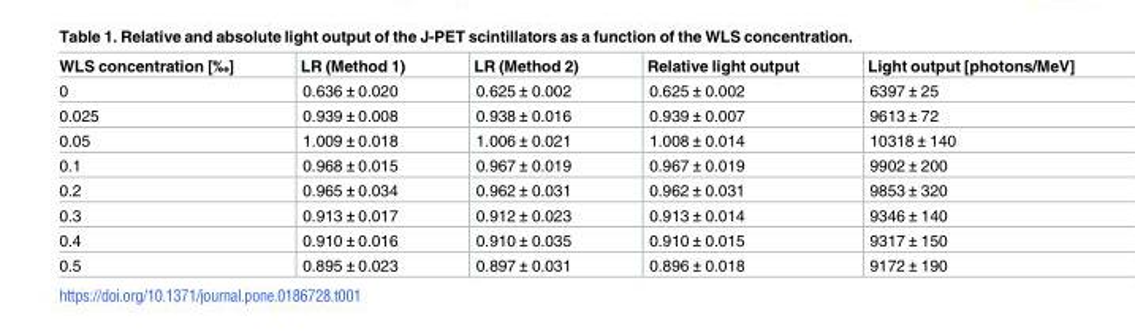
<table><thead><tr><td>WLS concentration [‰]</td><td>LR (Method 1)</td><td>LR (Method 2)</td><td>Relative light output</td><td>Light output [photons/MeV]</td></tr></thead><tbody><tr><td>0</td><td>0.636 ± 0.020</td><td>0.625 ± 0.002</td><td>0.625 ± 0.002</td><td>6397 ± 25</td></tr><tr><td>0.025</td><td>0.939 ± 0.008</td><td>0.938 ± 0.016</td><td>0.939 ± 0.007</td><td>9613 ± 72</td></tr><tr><td>0.05</td><td>1.009 ± 0.018</td><td>1.006 ± 0.021</td><td>1.008 ± 0.014</td><td>10318 ± 140</td></tr><tr><td>0.1</td><td>0.968 ± 0.015</td><td>0.967 ± 0.019</td><td>0.967 ± 0.019</td><td>9902 ± 200</td></tr><tr><td>0.2</td><td>0.965 ± 0.034</td><td>0.962 ± 0.031</td><td>0.962 ± 0.031</td><td>9853 ± 320</td></tr><tr><td>0.3</td><td>0.913 ± 0.017</td><td>0.912 ± 0.023</td><td>0.913 ± 0.014</td><td>9346 ± 140</td></tr><tr><td>0.4</td><td>0.910 ± 0.016</td><td>0.910 ± 0.035</td><td>0.910 ± 0.015</td><td>9317 ± 150</td></tr><tr><td>0.5</td><td>0.895 ± 0.023</td><td>0.897 ± 0.031</td><td>0.896 ± 0.018</td><td>9172 ± 190</td></tr></tbody></table>